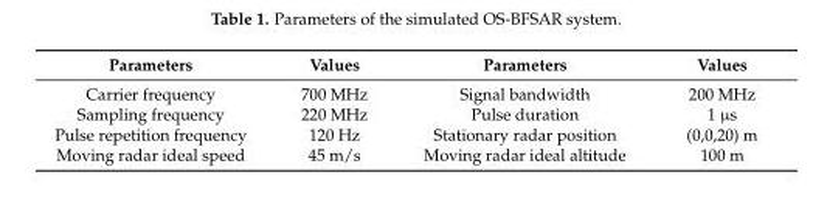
<table><thead><tr><td>Parameters</td><td>Values</td><td>Parameters</td><td>Values</td></tr></thead><tbody><tr><td>Carrier frequency</td><td>700 MHz</td><td>Signal bandwidth</td><td>200 MHz</td></tr><tr><td>Sampling frequency</td><td>220 MHz</td><td>Pulse duration</td><td>1 µs</td></tr><tr><td>Pulse repetition frequency</td><td>120 Hz</td><td>Stationary radar position</td><td>(0,0,20) m</td></tr><tr><td>Moving radar ideal speed</td><td>45 m/s</td><td>Moving radar ideal altitude</td><td>100 m</td></tr></tbody></table>